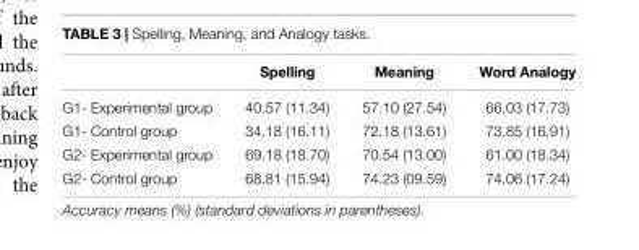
<table><thead><tr><td></td><td>Spelling</td><td>Meaning</td><td>Word Analogy</td></tr></thead><tbody><tr><td>G1- Experimental group</td><td>40.57 (11.34)</td><td>57.10 (27.54)</td><td>66.03 (17.73)</td></tr><tr><td>G1- Control group</td><td>34.18 (16.11)</td><td>72.18 (13.61)</td><td>73.85 (16.91)</td></tr><tr><td>G2- Experimental group</td><td>69.18 (18.70)</td><td>70.54 (13.00)</td><td>61.00 (18.34)</td></tr><tr><td>G2- Control group</td><td>68.81 (15.94)</td><td>74.23 (09.59)</td><td>74.06 (17.24)</td></tr></tbody></table>